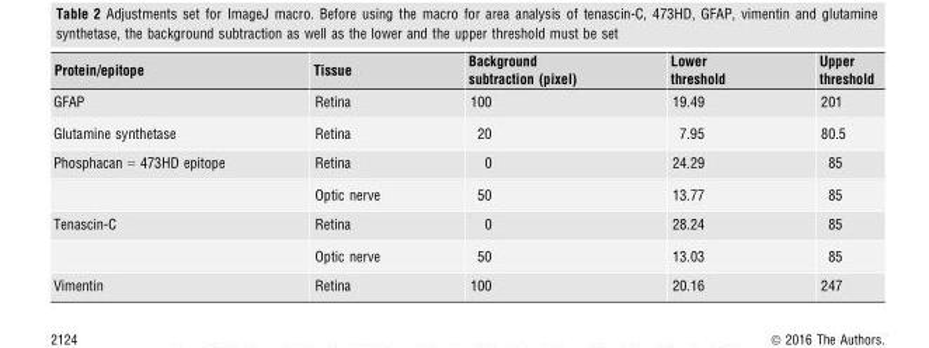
<table><thead><tr><td>Protein/epitope</td><td>Tissue</td><td>Background subtraction (pixel)</td><td>Lower threshold</td><td>Upper threshold</td></tr></thead><tbody><tr><td>GFAP</td><td>Retina</td><td>100</td><td>19.49</td><td>201</td></tr><tr><td>Glutamine synthetase</td><td>Retina</td><td>20</td><td>7.95</td><td>80.5</td></tr><tr><td rowspan="2">Phosphacan = 473HD epitope</td><td>Retina</td><td>0</td><td>24.29</td><td>85</td></tr><tr><td>Optic nerve</td><td>50</td><td>13.77</td><td>85</td></tr><tr><td rowspan="2">Tenascin-C</td><td>Retina</td><td>0</td><td>28.24</td><td>85</td></tr><tr><td>Optic nerve</td><td>50</td><td>13.03</td><td>85</td></tr><tr><td>Vimentin</td><td>Retina</td><td>100</td><td>20.16</td><td>247</td></tr></tbody></table>